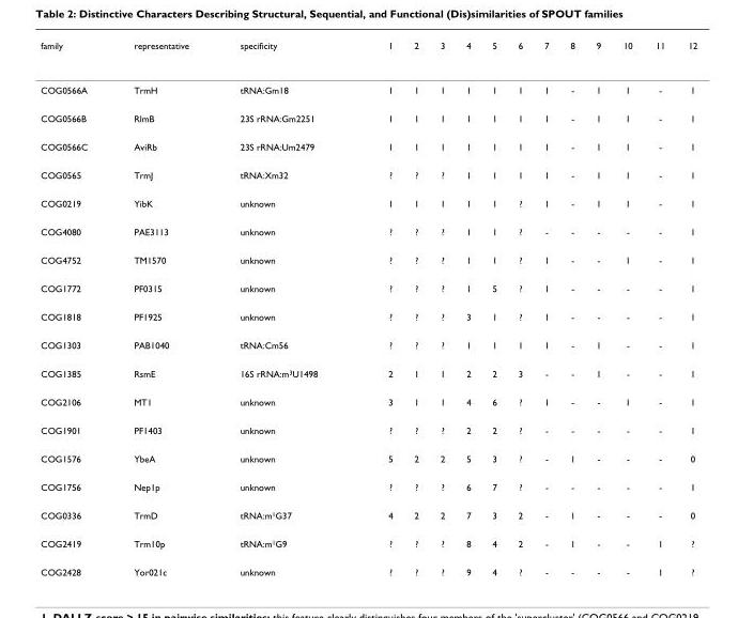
<table><thead><tr><td>family</td><td>representative</td><td>specificity</td><td>1</td><td>2</td><td>3</td><td>4</td><td>5</td><td>6</td><td>7</td><td>8</td><td>9</td><td>10</td><td>11</td><td>12</td></tr></thead><tbody><tr><td>COG0566A</td><td>TrmH</td><td>tRNA:Gm18</td><td>1</td><td>1</td><td>1</td><td>1</td><td>1</td><td>1</td><td>1</td><td>-</td><td>1</td><td>1</td><td>-</td><td>1</td></tr><tr><td>COG0566B</td><td>RlmB</td><td>23S rRNA:Gm2251</td><td>1</td><td>1</td><td>1</td><td>1</td><td>1</td><td>1</td><td>1</td><td>-</td><td>1</td><td>1</td><td>-</td><td>1</td></tr><tr><td>COG0566C</td><td>AviRb</td><td>23S rRNA:Um2479</td><td>1</td><td>1</td><td>1</td><td>1</td><td>1</td><td>1</td><td>1</td><td>-</td><td>1</td><td>1</td><td>-</td><td>1</td></tr><tr><td>COG0565</td><td>TrmJ</td><td>tRNA:Xm32</td><td>?</td><td>?</td><td>?</td><td>1</td><td>1</td><td>1</td><td>1</td><td>-</td><td>1</td><td>1</td><td>-</td><td>1</td></tr><tr><td>COG0219</td><td>YibK</td><td>unknown</td><td>1</td><td>1</td><td>1</td><td>1</td><td>1</td><td>?</td><td>1</td><td>-</td><td>1</td><td>1</td><td>-</td><td>1</td></tr><tr><td>COG4080</td><td>PAE3113</td><td>unknown</td><td>?</td><td>?</td><td>?</td><td>1</td><td>1</td><td>?</td><td>-</td><td>-</td><td>-</td><td>-</td><td>-</td><td>1</td></tr><tr><td>COG4752</td><td>TM1570</td><td>unknown</td><td>?</td><td>?</td><td>?</td><td>1</td><td>1</td><td>?</td><td>1</td><td>-</td><td>-</td><td>1</td><td>-</td><td>1</td></tr><tr><td>COG1772</td><td>PF0315</td><td>unknown</td><td>?</td><td>?</td><td>?</td><td>1</td><td>5</td><td>?</td><td>1</td><td>-</td><td>-</td><td>-</td><td>-</td><td>1</td></tr><tr><td>COG1818</td><td>PF1925</td><td>unknown</td><td>?</td><td>?</td><td>?</td><td>3</td><td>1</td><td>?</td><td>1</td><td>-</td><td>-</td><td>-</td><td>-</td><td>1</td></tr><tr><td>COG1303</td><td>PAB1040</td><td>tRNA:Cm56</td><td>?</td><td>?</td><td>?</td><td>1</td><td>1</td><td>1</td><td>1</td><td>-</td><td>1</td><td>-</td><td>-</td><td>1</td></tr><tr><td>COG1385</td><td>RsmE</td><td>16S rRNA:m<sup>3</sup>U1498</td><td>2</td><td>1</td><td>1</td><td>2</td><td>2</td><td>3</td><td>-</td><td>-</td><td>1</td><td>-</td><td>-</td><td>1</td></tr><tr><td>COG2106</td><td>MT1</td><td>unknown</td><td>3</td><td>1</td><td>1</td><td>4</td><td>6</td><td>?</td><td>1</td><td>-</td><td>-</td><td>1</td><td>-</td><td>1</td></tr><tr><td>COG1901</td><td>PF1403</td><td>unknown</td><td>?</td><td>?</td><td>?</td><td>2</td><td>2</td><td>?</td><td>-</td><td>-</td><td>-</td><td>-</td><td>-</td><td>1</td></tr><tr><td>COG1576</td><td>YbeA</td><td>unknown</td><td>5</td><td>2</td><td>2</td><td>5</td><td>3</td><td>?</td><td>-</td><td>1</td><td>-</td><td>-</td><td>-</td><td>0</td></tr><tr><td>COG1756</td><td>Nep1p</td><td>unknown</td><td>?</td><td>?</td><td>?</td><td>6</td><td>7</td><td>?</td><td>-</td><td>-</td><td>-</td><td>-</td><td>-</td><td>1</td></tr><tr><td>COG0336</td><td>TrmD</td><td>tRNA:m<sup>1</sup>G37</td><td>4</td><td>2</td><td>2</td><td>7</td><td>3</td><td>2</td><td>-</td><td>1</td><td>-</td><td>-</td><td>-</td><td>0</td></tr><tr><td>COG2419</td><td>Trm10p</td><td>tRNA:m<sup>1</sup>G9</td><td>?</td><td>?</td><td>?</td><td>8</td><td>4</td><td>2</td><td>-</td><td>1</td><td>-</td><td>-</td><td>1</td><td>?</td></tr><tr><td>COG2428</td><td>Yor021c</td><td>unknown</td><td>?</td><td>?</td><td>?</td><td>9</td><td>4</td><td>?</td><td>-</td><td>-</td><td>-</td><td>-</td><td>1</td><td>?</td></tr></tbody></table>